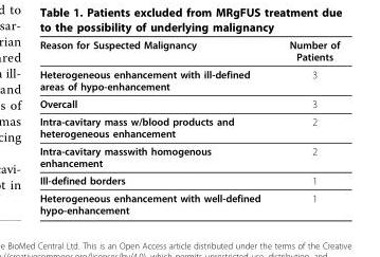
<table><thead><tr><td>Reason for Suspected Malignancy</td><td>Number of Patients</td></tr></thead><tbody><tr><td>Heterogeneous enhancement with ill-defined areas of hypo-enhancement</td><td>3</td></tr><tr><td>Overcall</td><td>3</td></tr><tr><td>Intra-cavitary mass w/blood products and heterogeneous enhancement</td><td>2</td></tr><tr><td>Intra-cavitary masswith homogenous enhancement</td><td>2</td></tr><tr><td>Ill-defined borders</td><td>1</td></tr><tr><td>Heterogeneous enhancement with well-defined hypo-enhancement</td><td>1</td></tr></tbody></table>